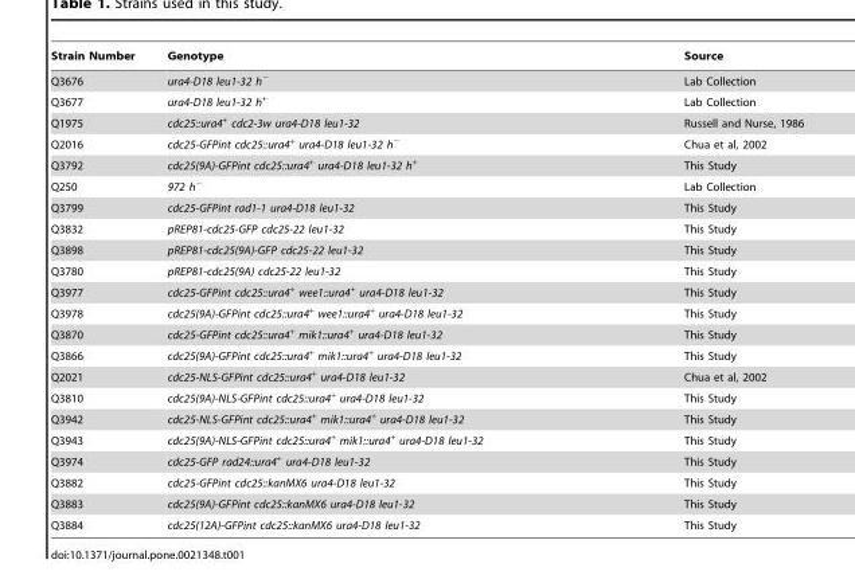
<table><thead><tr><td>Strain Number</td><td>Genotype</td><td>Source</td></tr></thead><tbody><tr><td>Q3676</td><td>ura4-D18 leu1-32 h<sup>−</sup></td><td>Lab Collection</td></tr><tr><td>Q3677</td><td>ura4-D18 leu1-32 h<sup>+</sup></td><td>Lab Collection</td></tr><tr><td>Q1975</td><td>cdc25::ura4<sup>+</sup> cdc2-3w ura4-D18 leu1-32</td><td>Russell and Nurse, 1986</td></tr><tr><td>Q2016</td><td>cdc25-GFPint cdc25::ura4<sup>+</sup> ura4-D18 leu1-32 h<sup>−</sup></td><td>Chua et al, 2002</td></tr><tr><td>Q3792</td><td>cdc25(9A)-GFPint cdc25::ura4<sup>+</sup> ura4-D18 leu1-32 h<sup>+</sup></td><td>This Study</td></tr><tr><td>Q250</td><td>972 h<sup>−</sup></td><td>Lab Collection</td></tr><tr><td>Q3799</td><td>cdc25-GFPint rad1-1 ura4-D18 leu1-32</td><td>This Study</td></tr><tr><td>Q3832</td><td>pREP81-cdc25-GFP cdc25-22 leu1-32</td><td>This Study</td></tr><tr><td>Q3898</td><td>pREP81-cdc25(9A)-GFP cdc25-22 leu1-32</td><td>This Study</td></tr><tr><td>Q3780</td><td>pREP81-cdc25(9A) cdc25-22 leu1-32</td><td>This Study</td></tr><tr><td>Q3977</td><td>cdc25-GFPint cdc25::ura4<sup>+</sup> wee1::ura4<sup>+</sup> ura4-D18 leu1-32</td><td>This Study</td></tr><tr><td>Q3978</td><td>cdc25(9A)-GFPint cdc25::ura4<sup>+</sup> wee1::ura4<sup>+</sup> ura4-D18 leu1-32</td><td>This Study</td></tr><tr><td>Q3870</td><td>cdc25-GFPint cdc25::ura4<sup>+</sup> mik1::ura4<sup>+</sup> ura4-D18 leu1-32</td><td>This Study</td></tr><tr><td>Q3866</td><td>cdc25(9A)-GFPint cdc25::ura4<sup>+</sup> mik1::ura4<sup>+</sup> ura4-D18 leu1-32</td><td>This Study</td></tr><tr><td>Q2021</td><td>cdc25-NLS-GFPint cdc25::ura4<sup>+</sup> ura4-D18 leu1-32</td><td>Chua et al, 2002</td></tr><tr><td>Q3810</td><td>cdc25(9A)-NLS-GFPint cdc25::ura4<sup>+</sup> ura4-D18 leu1-32</td><td>This Study</td></tr><tr><td>Q3942</td><td>cdc25-NLS-GFPint cdc25::ura4<sup>+</sup> mik1::ura4<sup>+</sup> ura4-D18 leu1-32</td><td>This Study</td></tr><tr><td>Q3943</td><td>cdc25(9A)-NLS-GFPint cdc25::ura4<sup>+</sup> mik1::ura4<sup>+</sup> ura4-D18 leu1-32</td><td>This Study</td></tr><tr><td>Q3974</td><td>cdc25-GFP rad24::ura4<sup>+</sup> ura4-D18 leu1-32</td><td>This Study</td></tr><tr><td>Q3882</td><td>cdc25-GFPint cdc25::kanMX6 ura4-D18 leu1-32</td><td>This Study</td></tr><tr><td>Q3883</td><td>cdc25(9A)-GFPint cdc25::kanMX6 ura4-D18 leu1-32</td><td>This Study</td></tr><tr><td>Q3884</td><td>cdc25(12A)-GFPint cdc25::kanMX6 ura4-D18 leu1-32</td><td>This Study</td></tr></tbody></table>